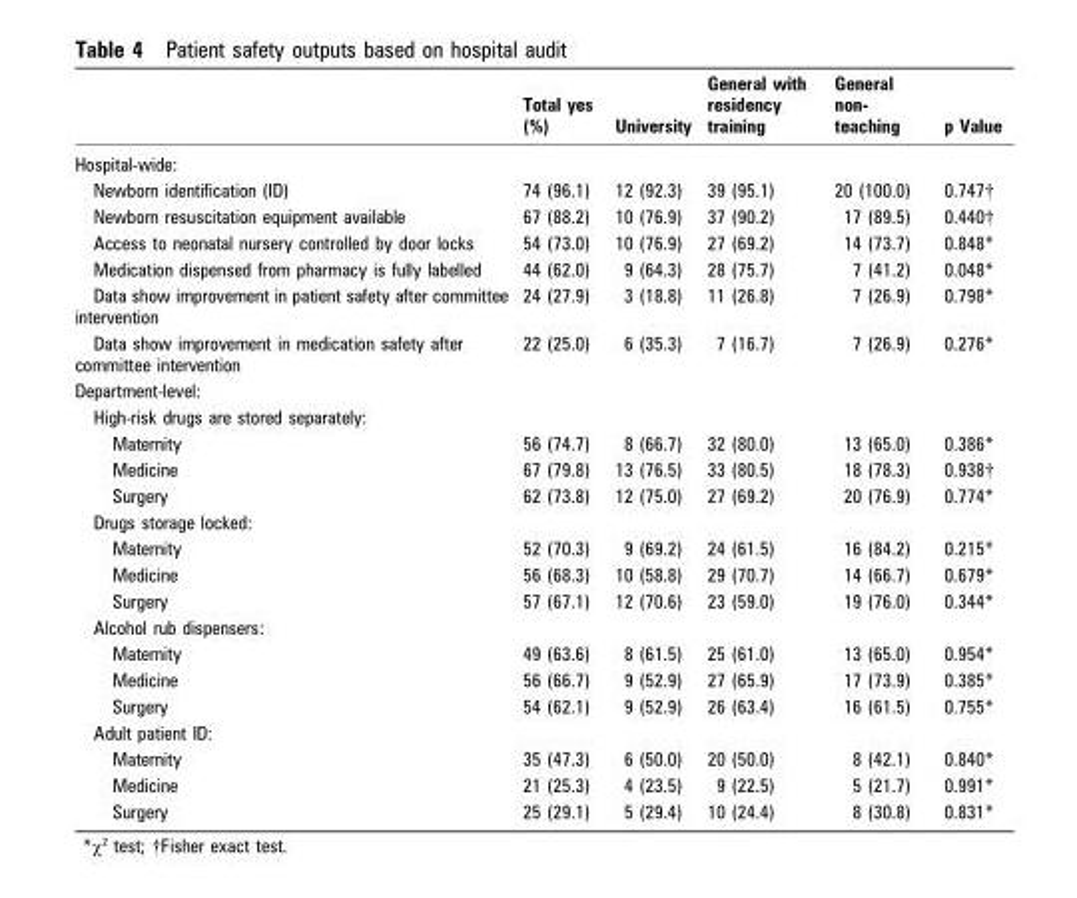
<table><thead><tr><td></td><td>Total yes (%)</td><td>University</td><td>General with residency training</td><td>General non- teaching</td><td>p Value</td></tr></thead><tbody><tr><td colspan="6">Hospital-wide:</td></tr><tr><td>Newborn identification (ID)</td><td>74 (96.1)</td><td>12 (92.3)</td><td>39 (95.1)</td><td>20 (100.0)</td><td>0.747†</td></tr><tr><td>Newborn resuscitation equipment available</td><td>67 (88.2)</td><td>10 (76.9)</td><td>37 (90.2)</td><td>17 (89.5)</td><td>0.440†</td></tr><tr><td>Access to neonatal nursery controlled by door locks</td><td>54 (73.0)</td><td>10 (76.9)</td><td>27 (69.2)</td><td>14 (73.7)</td><td>0.848*</td></tr><tr><td>Medication dispensed from pharmacy is fully labelled</td><td>44 (62.0)</td><td>9 (64.3)</td><td>28 (75.7)</td><td>7 (41.2)</td><td>0.048*</td></tr><tr><td>Data show improvement in patient safety after committee intervention</td><td>24 (27.9)</td><td>3 (18.8)</td><td>11 (26.8)</td><td>7 (26.9)</td><td>0.798*</td></tr><tr><td>Data show improvement in medication safety after committee intervention</td><td>22 (25.0)</td><td>6 (35.3)</td><td>7 (16.7)</td><td>7 (26.9)</td><td>0.276*</td></tr><tr><td colspan="6">Department-level:</td></tr><tr><td colspan="6">High-risk drugs are stored separately:</td></tr><tr><td>Maternity</td><td>56 (74.7)</td><td>8 (66.7)</td><td>32 (80.0)</td><td>13 (65.0)</td><td>0.386*</td></tr><tr><td>Medicine</td><td>67 (79.8)</td><td>13 (76.5)</td><td>33 (80.5)</td><td>18 (78.3)</td><td>0.938†</td></tr><tr><td>Surgery</td><td>62 (73.8)</td><td>12 (75.0)</td><td>27 (69.2)</td><td>20 (76.9)</td><td>0.774*</td></tr><tr><td colspan="6">Drugs storage locked:</td></tr><tr><td>Maternity</td><td>52 (70.3)</td><td>9 (69.2)</td><td>24 (61.5)</td><td>16 (84.2)</td><td>0.215*</td></tr><tr><td>Medicine</td><td>56 (68.3)</td><td>10 (58.8)</td><td>29 (70.7)</td><td>14 (66.7)</td><td>0.679*</td></tr><tr><td>Surgery</td><td>57 (67.1)</td><td>12 (70.6)</td><td>23 (59.0)</td><td>19 (76.0)</td><td>0.344*</td></tr><tr><td colspan="6">Alcohol rub dispensers:</td></tr><tr><td>Maternity</td><td>49 (63.6)</td><td>8 (61.5)</td><td>25 (61.0)</td><td>13 (65.0)</td><td>0.954*</td></tr><tr><td>Medicine</td><td>56 (66.7)</td><td>9 (52.9)</td><td>27 (65.9)</td><td>17 (73.9)</td><td>0.385*</td></tr><tr><td>Surgery</td><td>54 (62.1)</td><td>9 (52.9)</td><td>26 (63.4)</td><td>16 (61.5)</td><td>0.755*</td></tr><tr><td colspan="6">Adult patient ID:</td></tr><tr><td>Maternity</td><td>35 (47.3)</td><td>6 (50.0)</td><td>20 (50.0)</td><td>8 (42.1)</td><td>0.840*</td></tr><tr><td>Medicine</td><td>21 (25.3)</td><td>4 (23.5)</td><td>9 (22.5)</td><td>5 (21.7)</td><td>0.991*</td></tr><tr><td>Surgery</td><td>25 (29.1)</td><td>5 (29.4)</td><td>10 (24.4)</td><td>8 (30.8)</td><td>0.831*</td></tr></tbody></table>